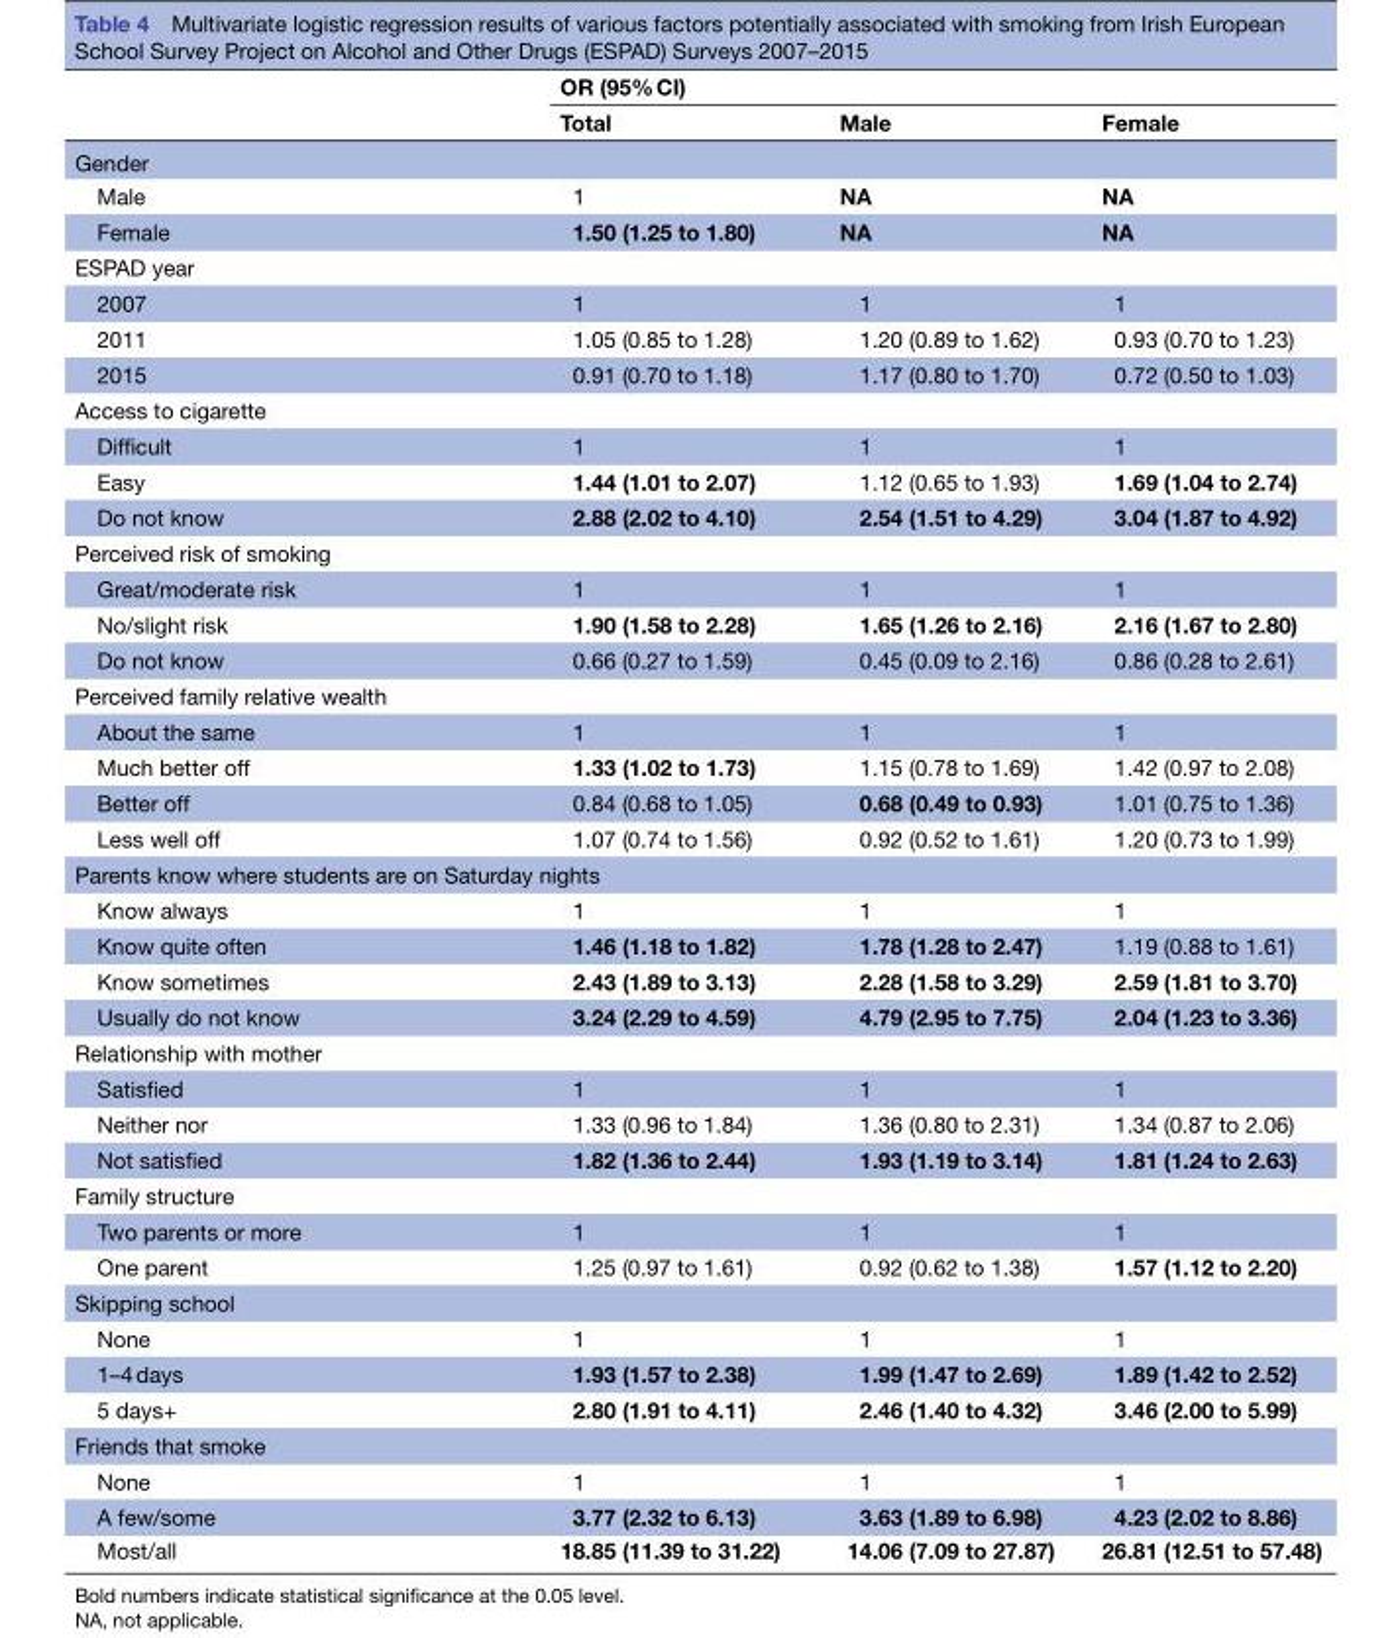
<table><thead><tr><td rowspan="2"></td><td colspan="3">OR (95% CI)</td></tr><tr><td>Total</td><td>Male</td><td>Female</td></tr></thead><tbody><tr><td colspan="4">Gender</td></tr><tr><td>Male</td><td>1</td><td>NA</td><td>NA</td></tr><tr><td>Female</td><td>1.50 (1.25 to 1.80)</td><td>NA</td><td>NA</td></tr><tr><td colspan="4">ESPAD year</td></tr><tr><td>2007</td><td>1</td><td>1</td><td>1</td></tr><tr><td>2011</td><td>1.05 (0.85 to 1.28)</td><td>1.20 (0.89 to 1.62)</td><td>0.93 (0.70 to 1.23)</td></tr><tr><td>2015</td><td>0.91 (0.70 to 1.18)</td><td>1.17 (0.80 to 1.70)</td><td>0.72 (0.50 to 1.03)</td></tr><tr><td colspan="4">Access to cigarette</td></tr><tr><td>Difficult</td><td>1</td><td>1</td><td>1</td></tr><tr><td>Easy</td><td>1.44 (1.01 to 2.07)</td><td>1.12 (0.65 to 1.93)</td><td>1.69 (1.04 to 2.74)</td></tr><tr><td>Do not know</td><td>2.88 (2.02 to 4.10)</td><td>2.54 (1.51 to 4.29)</td><td>3.04 (1.87 to 4.92)</td></tr><tr><td colspan="4">Perceived risk of smoking</td></tr><tr><td>Great/moderate risk</td><td>1</td><td>1</td><td>1</td></tr><tr><td>No/slight risk</td><td>1.90 (1.58 to 2.28)</td><td>1.65 (1.26 to 2.16)</td><td>2.16 (1.67 to 2.80)</td></tr><tr><td>Do not know</td><td>0.66 (0.27 to 1.59)</td><td>0.45 (0.09 to 2.16)</td><td>0.86 (0.28 to 2.61)</td></tr><tr><td colspan="4">Perceived family relative wealth</td></tr><tr><td>About the same</td><td>1</td><td>1</td><td>1</td></tr><tr><td>Much better off</td><td>1.33 (1.02 to 1.73)</td><td>1.15 (0.78 to 1.69)</td><td>1.42 (0.97 to 2.08)</td></tr><tr><td>Better off</td><td>0.84 (0.68 to 1.05)</td><td>0.68 (0.49 to 0.93)</td><td>1.01 (0.75 to 1.36)</td></tr><tr><td>Less well off</td><td>1.07 (0.74 to 1.56)</td><td>0.92 (0.52 to 1.61)</td><td>1.20 (0.73 to 1.99)</td></tr><tr><td colspan="4">Parents know where students are on Saturday nights</td></tr><tr><td>Know always</td><td>1</td><td>1</td><td>1</td></tr><tr><td>Know quite often</td><td>1.46 (1.18 to 1.82)</td><td>1.78 (1.28 to 2.47)</td><td>1.19 (0.88 to 1.61)</td></tr><tr><td>Know sometimes</td><td>2.43 (1.89 to 3.13)</td><td>2.28 (1.58 to 3.29)</td><td>2.59 (1.81 to 3.70)</td></tr><tr><td>Usually do not know</td><td>3.24 (2.29 to 4.59)</td><td>4.79 (2.95 to 7.75)</td><td>2.04 (1.23 to 3.36)</td></tr><tr><td colspan="4">Relationship with mother</td></tr><tr><td>Satisfied</td><td>1</td><td>1</td><td>1</td></tr><tr><td>Neither nor</td><td>1.33 (0.96 to 1.84)</td><td>1.36 (0.80 to 2.31)</td><td>1.34 (0.87 to 2.06)</td></tr><tr><td>Not satisfied</td><td>1.82 (1.36 to 2.44)</td><td>1.93 (1.19 to 3.14)</td><td>1.81 (1.24 to 2.63)</td></tr><tr><td colspan="4">Family structure</td></tr><tr><td>Two parents or more</td><td>1</td><td>1</td><td>1</td></tr><tr><td>One parent</td><td>1.25 (0.97 to 1.61)</td><td>0.92 (0.62 to 1.38)</td><td>1.57 (1.12 to 2.20)</td></tr><tr><td colspan="4">Skipping school</td></tr><tr><td>None</td><td>1</td><td>1</td><td>1</td></tr><tr><td>1–4 days</td><td>1.93 (1.57 to 2.38)</td><td>1.99 (1.47 to 2.69)</td><td>1.89 (1.42 to 2.52)</td></tr><tr><td>5 days+</td><td>2.80 (1.91 to 4.11)</td><td>2.46 (1.40 to 4.32)</td><td>3.46 (2.00 to 5.99)</td></tr><tr><td colspan="4">Friends that smoke</td></tr><tr><td>None</td><td>1</td><td>1</td><td>1</td></tr><tr><td>A few/some</td><td>3.77 (2.32 to 6.13)</td><td>3.63 (1.89 to 6.98)</td><td>4.23 (2.02 to 8.86)</td></tr><tr><td>Most/all</td><td>18.85 (11.39 to 31.22)</td><td>14.06 (7.09 to 27.87)</td><td>26.81 (12.51 to 57.48)</td></tr></tbody></table>